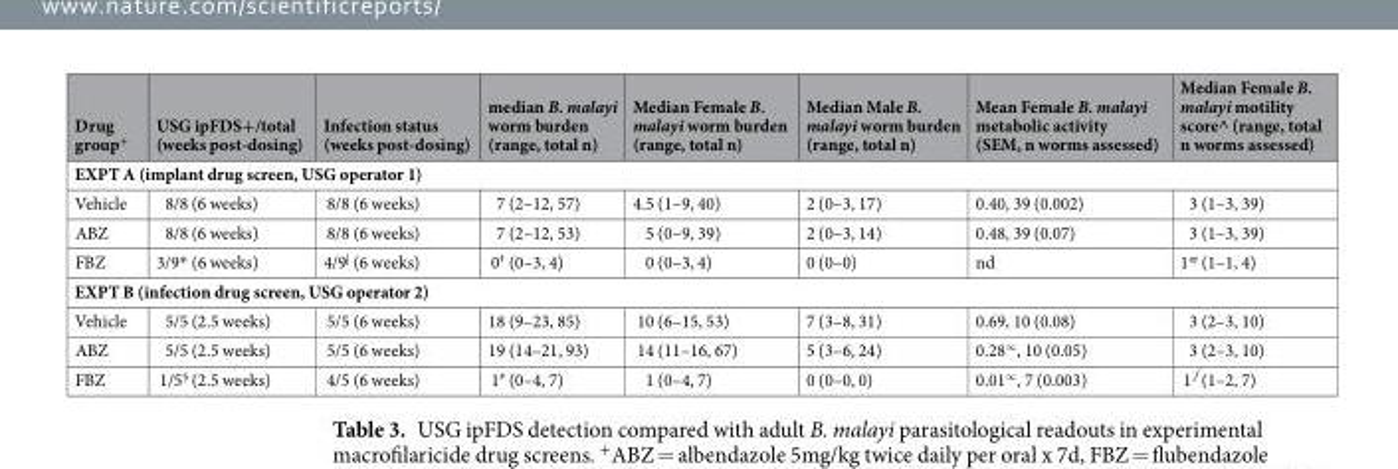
<table><thead><tr><td>Drug group<sup>+</sup></td><td>USG ipFDS+/total (weeks post-dosing)</td><td>Infection status (weeks post-dosing)</td><td>median B. malayi worm burden (range, total n)</td><td>Median Female B. malayi worm burden (range, total n)</td><td>Median Male B. malayi worm burden (range, total n)</td><td>Mean Female B. malayi metabolic activity (SEM, n worms assessed)</td><td>Median Female B. malayi motility score^ (range, total n worms assessed)</td></tr></thead><tbody><tr><td colspan="8">EXPT A (implant drug screen, USG operator 1)</td></tr><tr><td>Vehicle</td><td>8/8 (6 weeks)</td><td>8/8 (6 weeks)</td><td>7 (2–12, 57)</td><td>4.5 (1–9, 40)</td><td>2 (0–3, 17)</td><td>0.40, 39 (0.002)</td><td>3 (1–3, 39)</td></tr><tr><td>ABZ</td><td>8/8 (6 weeks)</td><td>8/8 (6 weeks)</td><td>7 (2–12, 53)</td><td>5 (0–9, 39)</td><td>2 (0–3, 14)</td><td>0.48, 39 (0.07)</td><td>3 (1–3, 39)</td></tr><tr><td>FBZ</td><td>3/9* (6 weeks)</td><td>4/9<sup>|</sup> (6 weeks)</td><td>0<sup>†</sup> (0–3, 4)</td><td>0 (0–3, 4)</td><td>0 (0–0)</td><td>nd</td><td>1<sup>œ</sup> (1–1, 4)</td></tr><tr><td colspan="8">EXPT B (infection drug screen, USG operator 2)</td></tr><tr><td>Vehicle</td><td>5/5 (2.5 weeks)</td><td>5/5 (6 weeks)</td><td>18 (9–23, 85)</td><td>10 (6–15, 53)</td><td>7 (3–8, 31)</td><td>0.69, 10 (0.08)</td><td>3 (2–3, 10)</td></tr><tr><td>ABZ</td><td>5/5 (2.5 weeks)</td><td>5/5 (6 weeks)</td><td>19 (14–21, 93)</td><td>14 (11–16, 67)</td><td>5 (3–6, 24)</td><td>0.28<sup>∞</sup>, 10 (0.05)</td><td>3 (2–3, 10)</td></tr><tr><td>FBZ</td><td>1/5<sup>§</sup> (2.5 weeks)</td><td>4/5 (6 weeks)</td><td>1<sup>#</sup> (0–4, 7)</td><td>1 (0–4, 7)</td><td>0 (0–0, 0)</td><td>0.01<sup>∞</sup>, 7 (0.003)</td><td>1<sup>∫</sup> (1–2, 7)</td></tr></tbody></table>